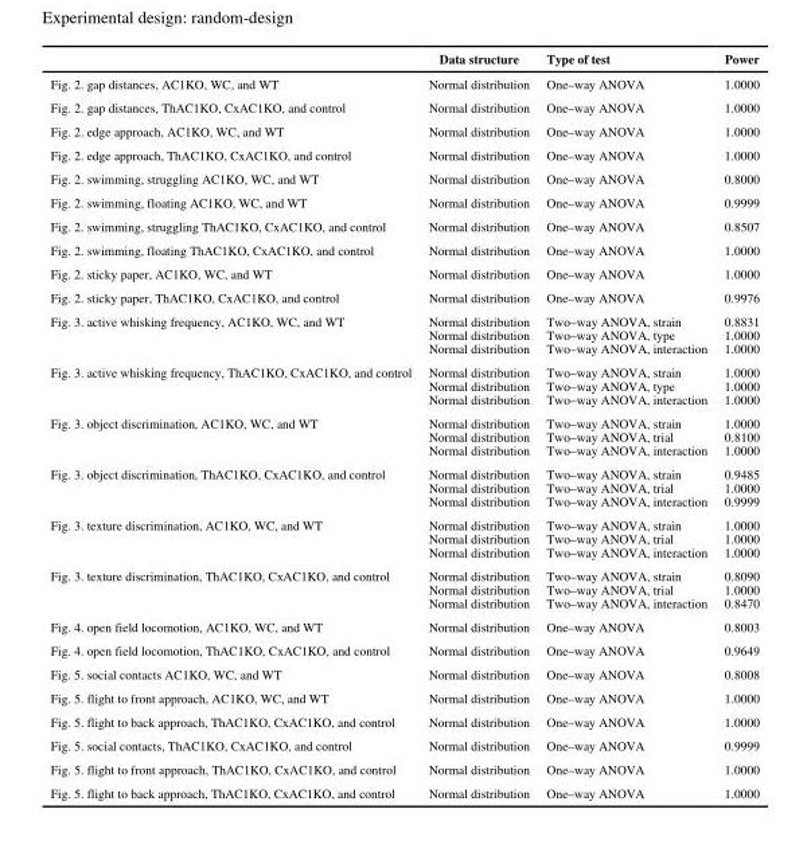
<table><thead><tr><td></td><td>Data structure</td><td>Type of test</td><td>Power</td></tr></thead><tbody><tr><td>Fig. 2. gap distances, AC1KO, WC, and WT</td><td>Normal distribution</td><td>One–way ANOVA</td><td>1.0000</td></tr><tr><td>Fig. 2. gap distances, ThAC1KO, CxAC1KO, and control</td><td>Normal distribution</td><td>One–way ANOVA</td><td>1.0000</td></tr><tr><td>Fig. 2. edge approach, AC1KO, WC, and WT</td><td>Normal distribution</td><td>One–way ANOVA</td><td>1.0000</td></tr><tr><td>Fig. 2. edge approach, ThAC1KO, CxAC1KO, and control</td><td>Normal distribution</td><td>One–way ANOVA</td><td>1.0000</td></tr><tr><td>Fig. 2. swimming, struggling AC1KO, WC, and WT</td><td>Normal distribution</td><td>One–way ANOVA</td><td>0.8000</td></tr><tr><td>Fig. 2. swimming, floating AC1KO, WC, and WT</td><td>Normal distribution</td><td>One–way ANOVA</td><td>0.9999</td></tr><tr><td>Fig. 2. swimming, struggling ThAC1KO, CxAC1KO, and control</td><td>Normal distribution</td><td>One–way ANOVA</td><td>0.8507</td></tr><tr><td>Fig. 2. swimming, floating ThAC1KO, CxAC1KO, and control</td><td>Normal distribution</td><td>One–way ANOVA</td><td>1.0000</td></tr><tr><td>Fig. 2. sticky paper, AC1KO, WC, and WT</td><td>Normal distribution</td><td>One–way ANOVA</td><td>1.0000</td></tr><tr><td>Fig. 2. sticky paper, ThAC1KO, CxAC1KO, and control</td><td>Normal distribution</td><td>One–way ANOVA</td><td>0.9976</td></tr><tr><td>Fig. 3. active whisking frequency, AC1KO, WC, and WT</td><td>Normal distribution Normal distribution Normal distribution</td><td>Two–way ANOVA, strain Two–way ANOVA, type Two–way ANOVA, interaction</td><td>0.8831 1.0000 1.0000</td></tr><tr><td>Fig. 3. active whisking frequency, ThAC1KO, CxAC1KO, and control</td><td>Normal distribution Normal distribution Normal distribution</td><td>Two–way ANOVA, strain Two–way ANOVA, type Two–way ANOVA, interaction</td><td>1.0000 1.0000 1.0000</td></tr><tr><td>Fig. 3. object discrimination, AC1KO, WC, and WT</td><td>Normal distribution Normal distribution Normal distribution</td><td>Two–way ANOVA, strain Two–way ANOVA, trial Two–way ANOVA, interaction</td><td>1.0000 0.8100 1.0000</td></tr><tr><td>Fig. 3. object discrimination, ThAC1KO, CxAC1KO, and control</td><td>Normal distribution Normal distribution Normal distribution</td><td>Two–way ANOVA, strain Two–way ANOVA, trial Two–way ANOVA, interaction</td><td>0.9485 1.0000 0.9999</td></tr><tr><td>Fig. 3. texture discrimination, AC1KO, WC, and WT</td><td>Normal distribution Normal distribution Normal distribution</td><td>Two–way ANOVA, strain Two–way ANOVA, trial Two–way ANOVA, interaction</td><td>1.0000 1.0000 1.0000</td></tr><tr><td>Fig. 3. texture discrimination, ThAC1KO, CxAC1KO, and control</td><td>Normal distribution Normal distribution Normal distribution</td><td>Two–way ANOVA, strain Two–way ANOVA, trial Two–way ANOVA, interaction</td><td>0.8090 1.0000 0.8470</td></tr><tr><td>Fig. 4. open field locomotion, AC1KO, WC, and WT</td><td>Normal distribution</td><td>One–way ANOVA</td><td>0.8003</td></tr><tr><td>Fig. 4. open field locomotion, ThAC1KO, CxAC1KO, and control</td><td>Normal distribution</td><td>One–way ANOVA</td><td>0.9649</td></tr><tr><td>Fig. 5. social contacts AC1KO, WC, and WT</td><td>Normal distribution</td><td>One–way ANOVA</td><td>0.8008</td></tr><tr><td>Fig. 5. flight to front approach, AC1KO, WC, and WT</td><td>Normal distribution</td><td>One–way ANOVA</td><td>1.0000</td></tr><tr><td>Fig. 5. flight to back approach, ThAC1KO, CxAC1KO, and control</td><td>Normal distribution</td><td>One–way ANOVA</td><td>1.0000</td></tr><tr><td>Fig. 5. social contacts, ThAC1KO, CxAC1KO, and control</td><td>Normal distribution</td><td>One–way ANOVA</td><td>0.9999</td></tr><tr><td>Fig. 5. flight to front approach, ThAC1KO, CxAC1KO, and control</td><td>Normal distribution</td><td>One–way ANOVA</td><td>1.0000</td></tr><tr><td>Fig. 5. flight to back approach, ThAC1KO, CxAC1KO, and control</td><td>Normal distribution</td><td>One–way ANOVA</td><td>1.0000</td></tr></tbody></table>